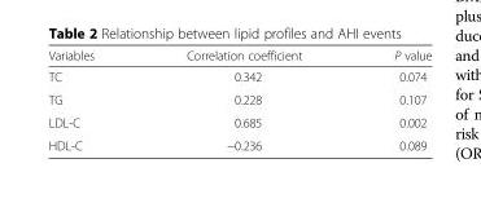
<table><thead><tr><td>Variables</td><td>Correlation coefficient</td><td>P value</td></tr></thead><tbody><tr><td>TC</td><td>0.342</td><td>0.074</td></tr><tr><td>TG</td><td>0.228</td><td>0.107</td></tr><tr><td>LDL-C</td><td>0.685</td><td>0.002</td></tr><tr><td>HDL-C</td><td>−0.236</td><td>0.089</td></tr></tbody></table>